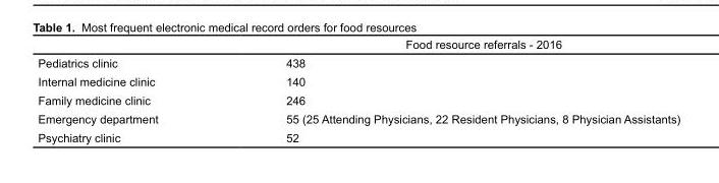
<table><thead><tr><td></td><td>Food resource referrals - 2016</td></tr></thead><tbody><tr><td>Pediatrics clinic</td><td>438</td></tr><tr><td>Internal medicine clinic</td><td>140</td></tr><tr><td>Family medicine clinic</td><td>246</td></tr><tr><td>Emergency department</td><td>55 (25 Attending Physicians, 22 Resident Physicians, 8 Physician Assistants)</td></tr><tr><td>Psychiatry clinic</td><td>52</td></tr></tbody></table>